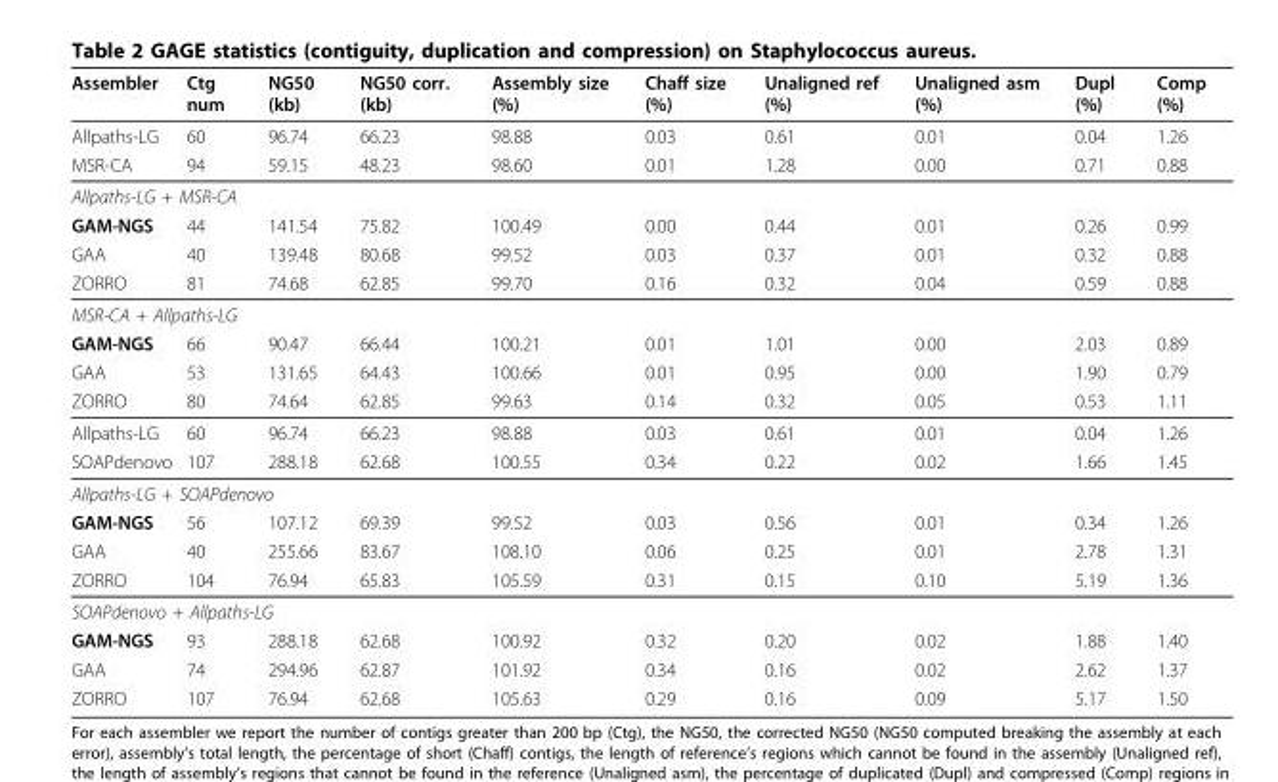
<table><thead><tr><td>Assembler</td><td>Ctg num</td><td>NG50 (kb)</td><td>NG50 corr. (kb)</td><td>Assembly size (%)</td><td>Chaff size (%)</td><td>Unaligned ref (%)</td><td>Unaligned asm (%)</td><td>Dupl (%)</td><td>Comp (%)</td></tr></thead><tbody><tr><td>Allpaths-LG</td><td>60</td><td>96.74</td><td>66.23</td><td>98.88</td><td>0.03</td><td>0.61</td><td>0.01</td><td>0.04</td><td>1.26</td></tr><tr><td>MSR-CA</td><td>94</td><td>59.15</td><td>48.23</td><td>98.60</td><td>0.01</td><td>1.28</td><td>0.00</td><td>0.71</td><td>0.88</td></tr><tr><td colspan="10">Allpaths-LG + MSR-CA</td></tr><tr><td>GAM-NGS</td><td>44</td><td>141.54</td><td>75.82</td><td>100.49</td><td>0.00</td><td>0.44</td><td>0.01</td><td>0.26</td><td>0.99</td></tr><tr><td>GAA</td><td>40</td><td>139.48</td><td>80.68</td><td>99.52</td><td>0.03</td><td>0.37</td><td>0.01</td><td>0.32</td><td>0.88</td></tr><tr><td>ZORRO</td><td>81</td><td>74.68</td><td>62.85</td><td>99.70</td><td>0.16</td><td>0.32</td><td>0.04</td><td>0.59</td><td>0.88</td></tr><tr><td colspan="10">MSR-CA + Allpaths-LG</td></tr><tr><td>GAM-NGS</td><td>66</td><td>90.47</td><td>66.44</td><td>100.21</td><td>0.01</td><td>1.01</td><td>0.00</td><td>2.03</td><td>0.89</td></tr><tr><td>GAA</td><td>53</td><td>131.65</td><td>64.43</td><td>100.66</td><td>0.01</td><td>0.95</td><td>0.00</td><td>1.90</td><td>0.79</td></tr><tr><td>ZORRO</td><td>80</td><td>74.64</td><td>62.85</td><td>99.63</td><td>0.14</td><td>0.32</td><td>0.05</td><td>0.53</td><td>1.11</td></tr><tr><td>Allpaths-LG</td><td>60</td><td>96.74</td><td>66.23</td><td>98.88</td><td>0.03</td><td>0.61</td><td>0.01</td><td>0.04</td><td>1.26</td></tr><tr><td>SOAPdenovo</td><td>107</td><td>288.18</td><td>62.68</td><td>100.55</td><td>0.34</td><td>0.22</td><td>0.02</td><td>1.66</td><td>1.45</td></tr><tr><td colspan="10">Allpaths-LG + SOAPdenovo</td></tr><tr><td>GAM-NGS</td><td>56</td><td>107.12</td><td>69.39</td><td>99.52</td><td>0.03</td><td>0.56</td><td>0.01</td><td>0.34</td><td>1.26</td></tr><tr><td>GAA</td><td>40</td><td>255.66</td><td>83.67</td><td>108.10</td><td>0.06</td><td>0.25</td><td>0.01</td><td>2.78</td><td>1.31</td></tr><tr><td>ZORRO</td><td>104</td><td>76.94</td><td>65.83</td><td>105.59</td><td>0.31</td><td>0.15</td><td>0.10</td><td>5.19</td><td>1.36</td></tr><tr><td colspan="10">SOAPdenovo + Allpaths-LG</td></tr><tr><td>GAM-NGS</td><td>93</td><td>288.18</td><td>62.68</td><td>100.92</td><td>0.32</td><td>0.20</td><td>0.02</td><td>1.88</td><td>1.40</td></tr><tr><td>GAA</td><td>74</td><td>294.96</td><td>62.87</td><td>101.92</td><td>0.34</td><td>0.16</td><td>0.02</td><td>2.62</td><td>1.37</td></tr><tr><td>ZORRO</td><td>107</td><td>76.94</td><td>62.68</td><td>105.63</td><td>0.29</td><td>0.16</td><td>0.09</td><td>5.17</td><td>1.50</td></tr></tbody></table>